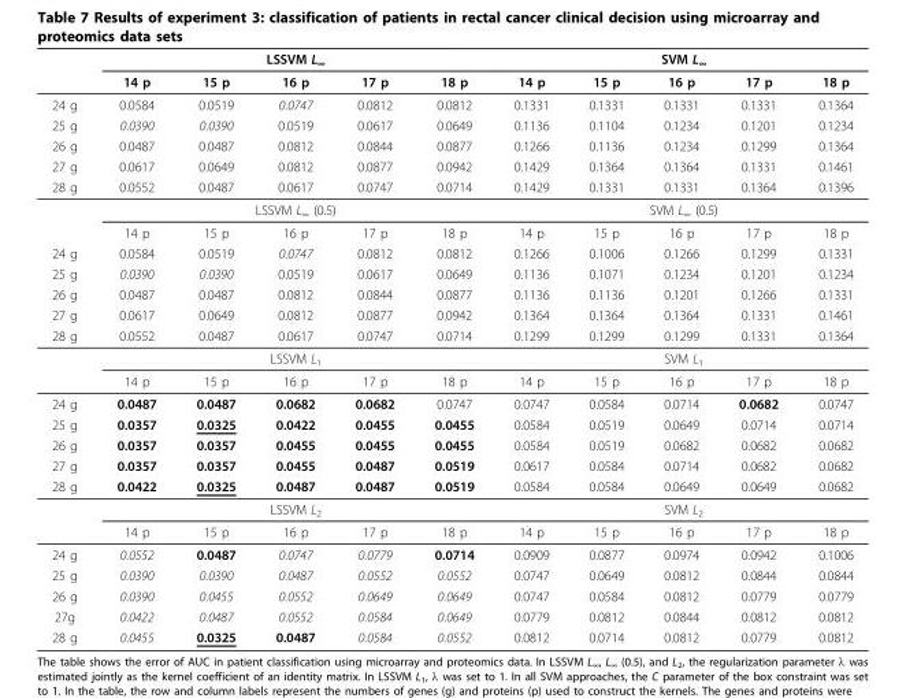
<table><thead><tr><td rowspan="2"></td><td colspan="5">LSSVM L<sub>∞</sub></td><td colspan="5">SVM L<sub>∞</sub></td></tr><tr><td>14 p</td><td>15 p</td><td>16 p</td><td>17 p</td><td>18 p</td><td>14 p</td><td>15 p</td><td>16 p</td><td>17 p</td><td>18 p</td></tr></thead><tbody><tr><td>24 g</td><td>0.0584</td><td>0.0519</td><td>0.0747</td><td>0.0812</td><td>0.0812</td><td>0.1331</td><td>0.1331</td><td>0.1331</td><td>0.1331</td><td>0.1364</td></tr><tr><td>25 g</td><td>0.0390</td><td>0.0390</td><td>0.0519</td><td>0.0617</td><td>0.0649</td><td>0.1136</td><td>0.1104</td><td>0.1234</td><td>0.1201</td><td>0.1234</td></tr><tr><td>26 g</td><td>0.0487</td><td>0.0487</td><td>0.0812</td><td>0.0844</td><td>0.0877</td><td>0.1266</td><td>0.1136</td><td>0.1234</td><td>0.1299</td><td>0.1364</td></tr><tr><td>27 g</td><td>0.0617</td><td>0.0649</td><td>0.0812</td><td>0.0877</td><td>0.0942</td><td>0.1429</td><td>0.1364</td><td>0.1364</td><td>0.1331</td><td>0.1461</td></tr><tr><td rowspan="3">28 g</td><td>0.0552</td><td>0.0487</td><td>0.0617</td><td>0.0747</td><td>0.0714</td><td>0.1429</td><td>0.1331</td><td>0.1331</td><td>0.1364</td><td>0.1396</td></tr><tr><td colspan="5">LSSVM L<sub>∞</sub> (0.5)</td><td colspan="5">SVM L<sub>∞</sub> (0.5)</td></tr><tr><td>14 p</td><td>15 p</td><td>16 p</td><td>17 p</td><td>18 p</td><td>14 p</td><td>15 p</td><td>16 p</td><td>17 p</td><td>18 p</td></tr><tr><td>24 g</td><td>0.0584</td><td>0.0519</td><td>0.0747</td><td>0.0812</td><td>0.0812</td><td>0.1266</td><td>0.1006</td><td>0.1266</td><td>0.1299</td><td>0.1331</td></tr><tr><td>25 g</td><td>0.0390</td><td>0.0390</td><td>0.0519</td><td>0.0617</td><td>0.0649</td><td>0.1136</td><td>0.1071</td><td>0.1234</td><td>0.1201</td><td>0.1234</td></tr><tr><td>26 g</td><td>0.0487</td><td>0.0487</td><td>0.0812</td><td>0.0844</td><td>0.0877</td><td>0.1136</td><td>0.1136</td><td>0.1201</td><td>0.1266</td><td>0.1331</td></tr><tr><td>27 g</td><td>0.0617</td><td>0.0649</td><td>0.0812</td><td>0.0877</td><td>0.0942</td><td>0.1364</td><td>0.1364</td><td>0.1364</td><td>0.1331</td><td>0.1461</td></tr><tr><td rowspan="3">28 g</td><td>0.0552</td><td>0.0487</td><td>0.0617</td><td>0.0747</td><td>0.0714</td><td>0.1299</td><td>0.1299</td><td>0.1299</td><td>0.1331</td><td>0.1364</td></tr><tr><td colspan="5">LSSVM L<sub>1</sub></td><td colspan="5">SVM L<sub>1</sub></td></tr><tr><td>14 p</td><td>15 p</td><td>16 p</td><td>17 p</td><td>18 p</td><td>14 p</td><td>15 p</td><td>16 p</td><td>17 p</td><td>18 p</td></tr><tr><td>24 g</td><td>0.0487</td><td>0.0487</td><td>0.0682</td><td>0.0682</td><td>0.0747</td><td>0.0747</td><td>0.0584</td><td>0.0714</td><td>0.0682</td><td>0.0747</td></tr><tr><td>25 g</td><td>0.0357</td><td>0.0325</td><td>0.0422</td><td>0.0455</td><td>0.0455</td><td>0.0584</td><td>0.0519</td><td>0.0649</td><td>0.0714</td><td>0.0714</td></tr><tr><td>26 g</td><td>0.0357</td><td>0.0357</td><td>0.0455</td><td>0.0455</td><td>0.0455</td><td>0.0584</td><td>0.0519</td><td>0.0682</td><td>0.0682</td><td>0.0682</td></tr><tr><td>27 g</td><td>0.0357</td><td>0.0357</td><td>0.0455</td><td>0.0487</td><td>0.0519</td><td>0.0617</td><td>0.0584</td><td>0.0714</td><td>0.0682</td><td>0.0682</td></tr><tr><td rowspan="3">28 g</td><td>0.0422</td><td>0.0325</td><td>0.0487</td><td>0.0487</td><td>0.0519</td><td>0.0584</td><td>0.0584</td><td>0.0649</td><td>0.0649</td><td>0.0682</td></tr><tr><td colspan="5">LSSVM L<sub>2</sub></td><td colspan="5">SVM L<sub>2</sub></td></tr><tr><td>14 p</td><td>15 p</td><td>16 p</td><td>17 p</td><td>18 p</td><td>14 p</td><td>15 p</td><td>16 p</td><td>17 p</td><td>18 p</td></tr><tr><td>24 g</td><td>0.0552</td><td>0.0487</td><td>0.0747</td><td>0.0779</td><td>0.0714</td><td>0.0909</td><td>0.0877</td><td>0.0974</td><td>0.0942</td><td>0.1006</td></tr><tr><td>25 g</td><td>0.0390</td><td>0.0390</td><td>0.0487</td><td>0.0552</td><td>0.0552</td><td>0.0747</td><td>0.0649</td><td>0.0812</td><td>0.0844</td><td>0.0844</td></tr><tr><td>26 g</td><td>0.0390</td><td>0.0455</td><td>0.0552</td><td>0.0649</td><td>0.0649</td><td>0.0747</td><td>0.0584</td><td>0.0812</td><td>0.0779</td><td>0.0779</td></tr><tr><td>27g</td><td>0.0422</td><td>0.0487</td><td>0.0552</td><td>0.0584</td><td>0.0649</td><td>0.0779</td><td>0.0812</td><td>0.0844</td><td>0.0812</td><td>0.0812</td></tr><tr><td>28 g</td><td>0.0455</td><td>0.0325</td><td>0.0487</td><td>0.0584</td><td>0.0552</td><td>0.0812</td><td>0.0714</td><td>0.0812</td><td>0.0779</td><td>0.0812</td></tr></tbody></table>